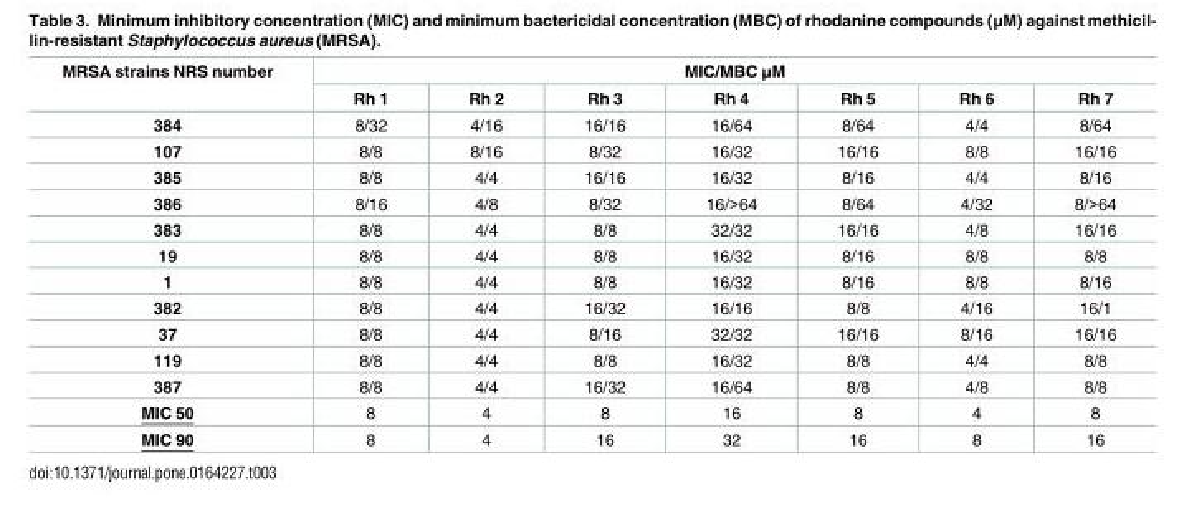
<table><thead><tr><td rowspan="2">MRSA strains NRS number</td><td colspan="7">MIC/MBC μM</td></tr><tr><td>Rh 1</td><td>Rh 2</td><td>Rh 3</td><td>Rh 4</td><td>Rh 5</td><td>Rh 6</td><td>Rh 7</td></tr></thead><tbody><tr><td>384</td><td>8/32</td><td>4/16</td><td>16/16</td><td>16/64</td><td>8/64</td><td>4/4</td><td>8/64</td></tr><tr><td>107</td><td>8/8</td><td>8/16</td><td>8/32</td><td>16/32</td><td>16/16</td><td>8/8</td><td>16/16</td></tr><tr><td>385</td><td>8/8</td><td>4/4</td><td>16/16</td><td>16/32</td><td>8/16</td><td>4/4</td><td>8/16</td></tr><tr><td>386</td><td>8/16</td><td>4/8</td><td>8/32</td><td>16/&gt;64</td><td>8/64</td><td>4/32</td><td>8/&gt;64</td></tr><tr><td>383</td><td>8/8</td><td>4/4</td><td>8/8</td><td>32/32</td><td>16/16</td><td>4/8</td><td>16/16</td></tr><tr><td>19</td><td>8/8</td><td>4/4</td><td>8/8</td><td>16/32</td><td>8/16</td><td>8/8</td><td>8/8</td></tr><tr><td>1</td><td>8/8</td><td>4/4</td><td>8/8</td><td>16/32</td><td>8/16</td><td>8/8</td><td>8/16</td></tr><tr><td>382</td><td>8/8</td><td>4/4</td><td>16/32</td><td>16/16</td><td>8/8</td><td>4/16</td><td>16/1</td></tr><tr><td>37</td><td>8/8</td><td>4/4</td><td>8/16</td><td>32/32</td><td>16/16</td><td>8/16</td><td>16/16</td></tr><tr><td>119</td><td>8/8</td><td>4/4</td><td>8/8</td><td>16/32</td><td>8/8</td><td>4/4</td><td>8/8</td></tr><tr><td>387</td><td>8/8</td><td>4/4</td><td>16/32</td><td>16/64</td><td>8/8</td><td>4/8</td><td>8/8</td></tr><tr><td>MIC 50</td><td>8</td><td>4</td><td>8</td><td>16</td><td>8</td><td>4</td><td>8</td></tr><tr><td>MIC 90</td><td>8</td><td>4</td><td>16</td><td>32</td><td>16</td><td>8</td><td>16</td></tr></tbody></table>